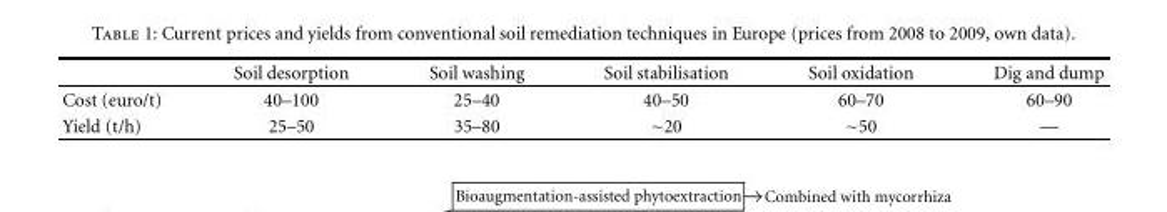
<table><thead><tr><td></td><td>Soil desorption</td><td>Soil washing</td><td>Soil stabilisation</td><td>Soil oxidation</td><td>Dig and dump</td></tr></thead><tbody><tr><td>Cost (euro/t)</td><td>40–100</td><td>25–40</td><td>40–50</td><td>60–70</td><td>60–90</td></tr><tr><td>Yield (t/h)</td><td>25–50</td><td>35–80</td><td>∼20</td><td>∼50</td><td>—</td></tr></tbody></table>